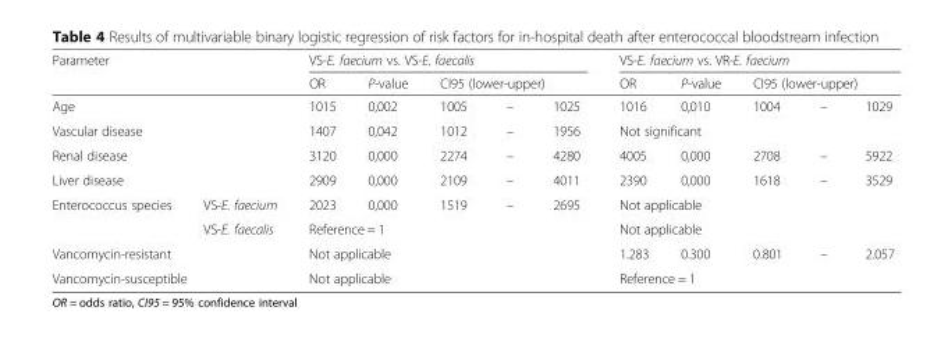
<table><thead><tr><td rowspan="2" colspan="2">Parameter</td><td colspan="5">VS-E. faecium vs. VS-E. faecalis</td><td colspan="5">VS-E. faecium vs. VR-E. faecium</td></tr><tr><td>OR</td><td>P-value</td><td colspan="3">CI95 (lower-upper)</td><td>OR</td><td>P-value</td><td colspan="3">CI95 (lower-upper)</td></tr></thead><tbody><tr><td colspan="2">Age</td><td>1015</td><td>0,002</td><td>1005</td><td>–</td><td>1025</td><td>1016</td><td>0,010</td><td>1004</td><td>–</td><td>1029</td></tr><tr><td colspan="2">Vascular disease</td><td>1407</td><td>0,042</td><td>1012</td><td>–</td><td>1956</td><td colspan="5">Not significant</td></tr><tr><td colspan="2">Renal disease</td><td>3120</td><td>0,000</td><td>2274</td><td>–</td><td>4280</td><td>4005</td><td>0,000</td><td>2708</td><td>–</td><td>5922</td></tr><tr><td colspan="2">Liver disease</td><td>2909</td><td>0,000</td><td>2109</td><td>–</td><td>4011</td><td>2390</td><td>0,000</td><td>1618</td><td>–</td><td>3529</td></tr><tr><td rowspan="2">Enterococcus species</td><td>VS-E. faecium</td><td>2023</td><td>0,000</td><td>1519</td><td>–</td><td>2695</td><td colspan="5">Not applicable</td></tr><tr><td>VS-E. faecalis</td><td colspan="5">Reference = 1</td><td colspan="5">Not applicable</td></tr><tr><td colspan="2">Vancomycin-resistant</td><td colspan="5">Not applicable</td><td>1.283</td><td>0.300</td><td>0.801</td><td>–</td><td>2.057</td></tr><tr><td colspan="2">Vancomycin-susceptible</td><td colspan="5">Not applicable</td><td colspan="5">Reference = 1</td></tr></tbody></table>